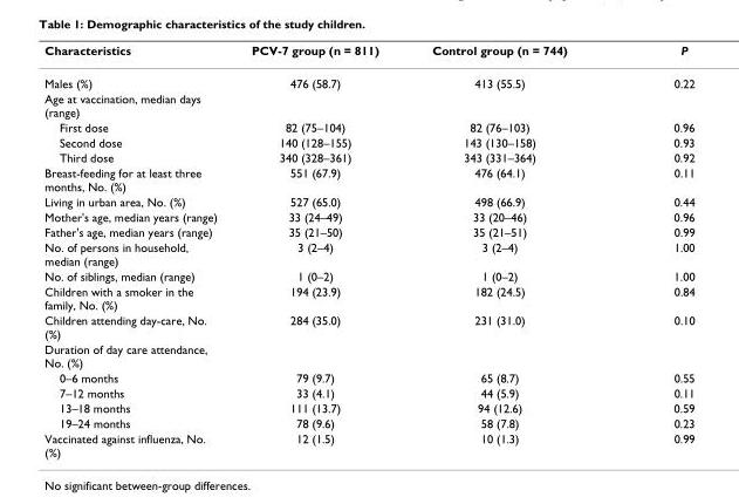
<table><thead><tr><td>Characteristics</td><td>PCV-7 group (n = 811)</td><td>Control group (n = 744)</td><td>P</td></tr></thead><tbody><tr><td>Males (%)</td><td>476 (58.7)</td><td>413 (55.5)</td><td>0.22</td></tr><tr><td colspan="4">Age at vaccination, median days (range)</td></tr><tr><td>First dose</td><td>82 (75–104)</td><td>82 (76–103)</td><td>0.96</td></tr><tr><td>Second dose</td><td>140 (128–155)</td><td>143 (130–158)</td><td>0.93</td></tr><tr><td>Third dose</td><td>340 (328–361)</td><td>343 (331–364)</td><td>0.92</td></tr><tr><td>Breast-feeding for at least three months, No. (%)</td><td>551 (67.9)</td><td>476 (64.1)</td><td>0.11</td></tr><tr><td>Living in urban area, No. (%)</td><td>527 (65.0)</td><td>498 (66.9)</td><td>0.44</td></tr><tr><td>Mother&#x27;s age, median years (range)</td><td>33 (24–49)</td><td>33 (20–46)</td><td>0.96</td></tr><tr><td>Father&#x27;s age, median years (range)</td><td>35 (21–50)</td><td>35 (21–51)</td><td>0.99</td></tr><tr><td>No. of persons in household, median (range)</td><td>3 (2–4)</td><td>3 (2–4)</td><td>1.00</td></tr><tr><td>No. of siblings, median (range)</td><td>1 (0–2)</td><td>1 (0–2)</td><td>1.00</td></tr><tr><td>Children with a smoker in the family, No. (%)</td><td>194 (23.9)</td><td>182 (24.5)</td><td>0.84</td></tr><tr><td>Children attending day-care, No. (%)</td><td>284 (35.0)</td><td>231 (31.0)</td><td>0.10</td></tr><tr><td colspan="4">Duration of day care attendance, No. (%)</td></tr><tr><td>0–6 months</td><td>79 (9.7)</td><td>65 (8.7)</td><td>0.55</td></tr><tr><td>7–12 months</td><td>33 (4.1)</td><td>44 (5.9)</td><td>0.11</td></tr><tr><td>13–18 months</td><td>111 (13.7)</td><td>94 (12.6)</td><td>0.59</td></tr><tr><td>19–24 months</td><td>78 (9.6)</td><td>58 (7.8)</td><td>0.23</td></tr><tr><td>Vaccinated against influenza, No. (%)</td><td>12 (1.5)</td><td>10 (1.3)</td><td>0.99</td></tr></tbody></table>